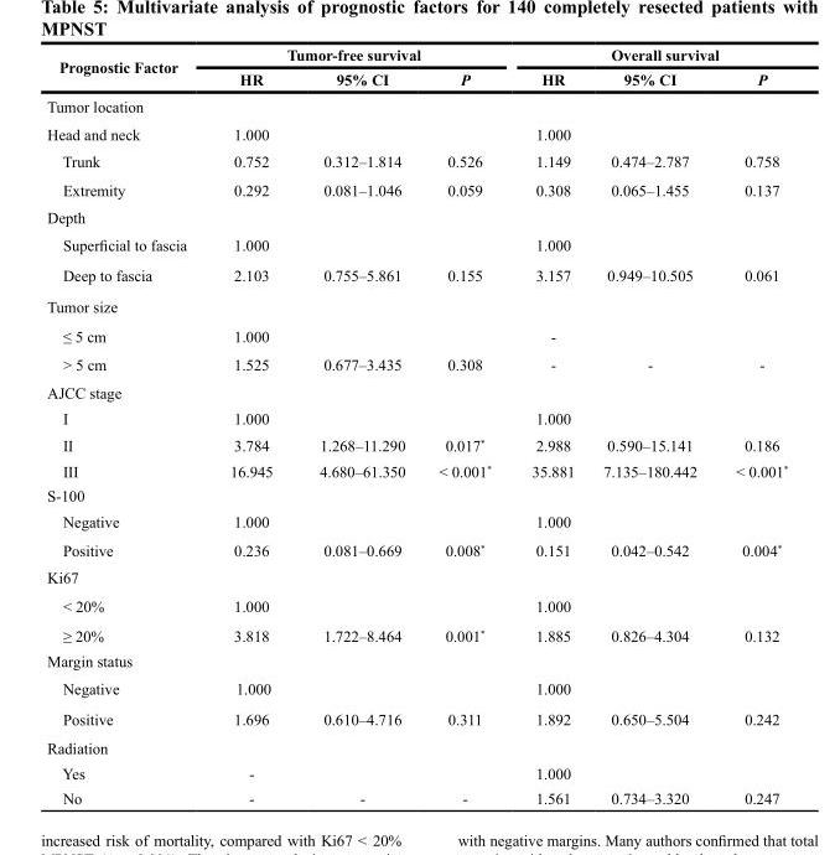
<table><thead><tr><td rowspan="2">Prognostic Factor</td><td colspan="3">Tumor-free survival</td><td colspan="3">Overall survival</td></tr><tr><td>HR</td><td>95% CI</td><td>P</td><td>HR</td><td>95% CI</td><td>P</td></tr></thead><tbody><tr><td colspan="7">Tumor location</td></tr><tr><td>Head and neck</td><td>1.000</td><td></td><td></td><td>1.000</td><td></td><td></td></tr><tr><td>Trunk</td><td>0.752</td><td>0.312–1.814</td><td>0.526</td><td>1.149</td><td>0.474–2.787</td><td>0.758</td></tr><tr><td>Extremity</td><td>0.292</td><td>0.081–1.046</td><td>0.059</td><td>0.308</td><td>0.065–1.455</td><td>0.137</td></tr><tr><td colspan="7">Depth</td></tr><tr><td>Superficial to fascia</td><td>1.000</td><td></td><td></td><td>1.000</td><td></td><td></td></tr><tr><td>Deep to fascia</td><td>2.103</td><td>0.755–5.861</td><td>0.155</td><td>3.157</td><td>0.949–10.505</td><td>0.061</td></tr><tr><td colspan="7">Tumor size</td></tr><tr><td>≤ 5 cm</td><td>1.000</td><td></td><td></td><td>-</td><td></td><td></td></tr><tr><td>&gt; 5 cm</td><td>1.525</td><td>0.677–3.435</td><td>0.308</td><td>-</td><td>-</td><td>-</td></tr><tr><td colspan="7">AJCC stage</td></tr><tr><td>I</td><td>1.000</td><td></td><td></td><td>1.000</td><td></td><td></td></tr><tr><td>II</td><td>3.784</td><td>1.268–11.290</td><td>0.017*</td><td>2.988</td><td>0.590–15.141</td><td>0.186</td></tr><tr><td>III</td><td>16.945</td><td>4.680–61.350</td><td>&lt; 0.001*</td><td>35.881</td><td>7.135–180.442</td><td>&lt; 0.001*</td></tr><tr><td colspan="7">S-100</td></tr><tr><td>Negative</td><td>1.000</td><td></td><td></td><td>1.000</td><td></td><td></td></tr><tr><td>Positive</td><td>0.236</td><td>0.081–0.669</td><td>0.008*</td><td>0.151</td><td>0.042–0.542</td><td>0.004*</td></tr><tr><td colspan="7">Ki67</td></tr><tr><td>&lt; 20%</td><td>1.000</td><td></td><td></td><td>1.000</td><td></td><td></td></tr><tr><td>≥ 20%</td><td>3.818</td><td>1.722–8.464</td><td>0.001*</td><td>1.885</td><td>0.826–4.304</td><td>0.132</td></tr><tr><td colspan="7">Margin status</td></tr><tr><td>Negative</td><td>1.000</td><td></td><td></td><td>1.000</td><td></td><td></td></tr><tr><td>Positive</td><td>1.696</td><td>0.610–4.716</td><td>0.311</td><td>1.892</td><td>0.650–5.504</td><td>0.242</td></tr><tr><td colspan="7">Radiation</td></tr><tr><td>Yes</td><td>-</td><td></td><td></td><td>1.000</td><td></td><td></td></tr><tr><td>No</td><td>-</td><td>-</td><td>-</td><td>1.561</td><td>0.734–3.320</td><td>0.247</td></tr></tbody></table>